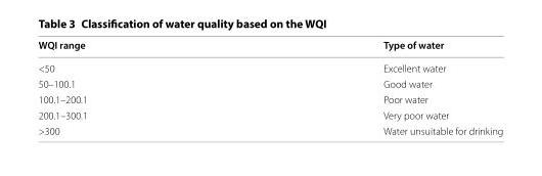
<table><thead><tr><td>WQI range</td><td>Type of water</td></tr></thead><tbody><tr><td>&lt;50</td><td>Excellent water</td></tr><tr><td>50–100.1</td><td>Good water</td></tr><tr><td>100.1–200.1</td><td>Poor water</td></tr><tr><td>200.1–300.1</td><td>Very poor water</td></tr><tr><td>&gt;300</td><td>Water unsuitable for drinking</td></tr></tbody></table>